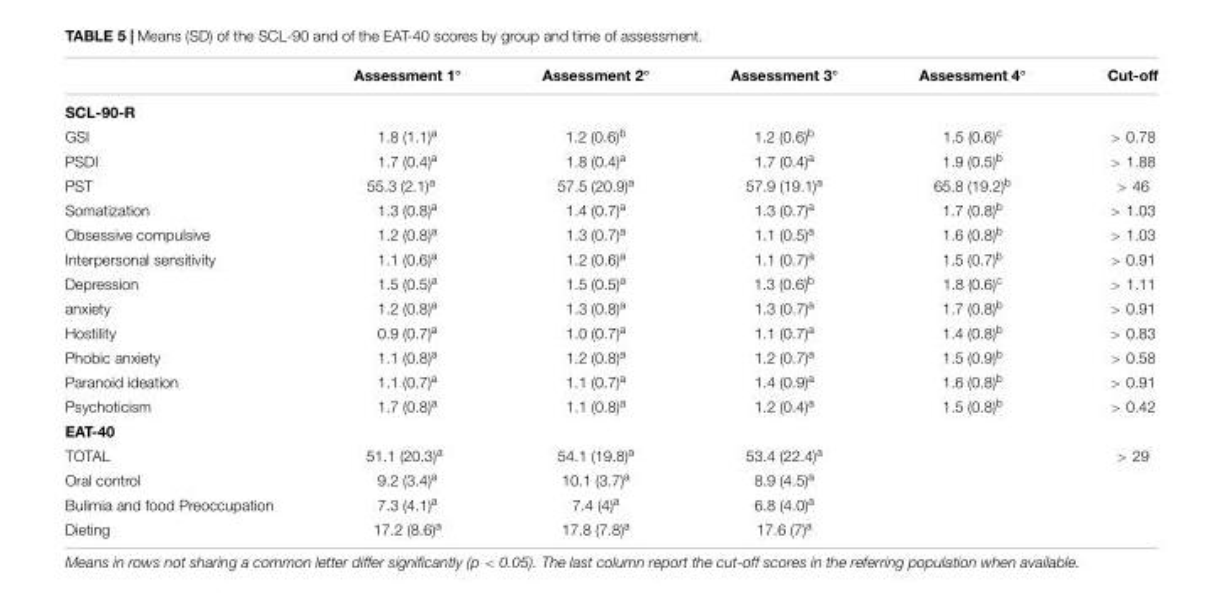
<table><thead><tr><td></td><td>Assessment 1◦</td><td>Assessment 2◦</td><td>Assessment 3◦</td><td>Assessment 4◦</td><td>Cut-off</td></tr></thead><tbody><tr><td colspan="6">SCL-90-R</td></tr><tr><td>GSI</td><td>1.8 (1.1)<sup>a</sup></td><td>1.2 (0.6)<sup>b</sup></td><td>1.2 (0.6)<sup>b</sup></td><td>1.5 (0.6)<sup>c</sup></td><td>&gt; 0.78</td></tr><tr><td>PSDI</td><td>1.7 (0.4)<sup>a</sup></td><td>1.8 (0.4)<sup>a</sup></td><td>1.7 (0.4)<sup>a</sup></td><td>1.9 (0.5)<sup>b</sup></td><td>&gt; 1.88</td></tr><tr><td>PST</td><td>55.3 (2.1)<sup>a</sup></td><td>57.5 (20.9)<sup>a</sup></td><td>57.9 (19.1)<sup>a</sup></td><td>65.8 (19.2)<sup>b</sup></td><td>&gt; 46</td></tr><tr><td>Somatization</td><td>1.3 (0.8)<sup>a</sup></td><td>1.4 (0.7)<sup>a</sup></td><td>1.3 (0.7)<sup>a</sup></td><td>1.7 (0.8)<sup>b</sup></td><td>&gt; 1.03</td></tr><tr><td>Obsessive compulsive</td><td>1.2 (0.8)<sup>a</sup></td><td>1.3 (0.7)<sup>a</sup></td><td>1.1 (0.5)<sup>a</sup></td><td>1.6 (0.8)<sup>b</sup></td><td>&gt; 1.03</td></tr><tr><td>Interpersonal sensitivity</td><td>1.1 (0.6)<sup>a</sup></td><td>1.2 (0.6)<sup>a</sup></td><td>1.1 (0.7)<sup>a</sup></td><td>1.5 (0.7)<sup>b</sup></td><td>&gt; 0.91</td></tr><tr><td>Depression</td><td>1.5 (0.5)<sup>a</sup></td><td>1.5 (0.5)<sup>a</sup></td><td>1.3 (0.6)<sup>b</sup></td><td>1.8 (0.6)<sup>c</sup></td><td>&gt; 1.11</td></tr><tr><td>anxiety</td><td>1.2 (0.8)<sup>a</sup></td><td>1.3 (0.8)<sup>a</sup></td><td>1.3 (0.7)<sup>a</sup></td><td>1.7 (0.8)<sup>b</sup></td><td>&gt; 0.91</td></tr><tr><td>Hostility</td><td>0.9 (0.7)<sup>a</sup></td><td>1.0 (0.7)<sup>a</sup></td><td>1.1 (0.7)<sup>a</sup></td><td>1.4 (0.8)<sup>b</sup></td><td>&gt; 0.83</td></tr><tr><td>Phobic anxiety</td><td>1.1 (0.8)<sup>a</sup></td><td>1.2 (0.8)<sup>a</sup></td><td>1.2 (0.7)<sup>a</sup></td><td>1.5 (0.9)<sup>b</sup></td><td>&gt; 0.58</td></tr><tr><td>Paranoid ideation</td><td>1.1 (0.7)<sup>a</sup></td><td>1.1 (0.7)<sup>a</sup></td><td>1.4 (0.9)<sup>a</sup></td><td>1.6 (0.8)<sup>b</sup></td><td>&gt; 0.91</td></tr><tr><td>Psychoticism</td><td>1.7 (0.8)<sup>a</sup></td><td>1.1 (0.8)<sup>a</sup></td><td>1.2 (0.4)<sup>a</sup></td><td>1.5 (0.8)<sup>b</sup></td><td>&gt; 0.42</td></tr><tr><td colspan="6">EAT-40</td></tr><tr><td>TOTAL</td><td>51.1 (20.3)<sup>a</sup></td><td>54.1 (19.8)<sup>a</sup></td><td>53.4 (22.4)<sup>a</sup></td><td></td><td>&gt; 29</td></tr><tr><td>Oral control</td><td>9.2 (3.4)<sup>a</sup></td><td>10.1 (3.7)<sup>a</sup></td><td>8.9 (4.5)<sup>a</sup></td><td></td><td></td></tr><tr><td>Bulimia and food Preoccupation</td><td>7.3 (4.1)<sup>a</sup></td><td>7.4 (4)<sup>a</sup></td><td>6.8 (4.0)<sup>a</sup></td><td></td><td></td></tr><tr><td>Dieting</td><td>17.2 (8.6)<sup>a</sup></td><td>17.8 (7.8)<sup>a</sup></td><td>17.6 (7)<sup>a</sup></td><td></td><td></td></tr></tbody></table>